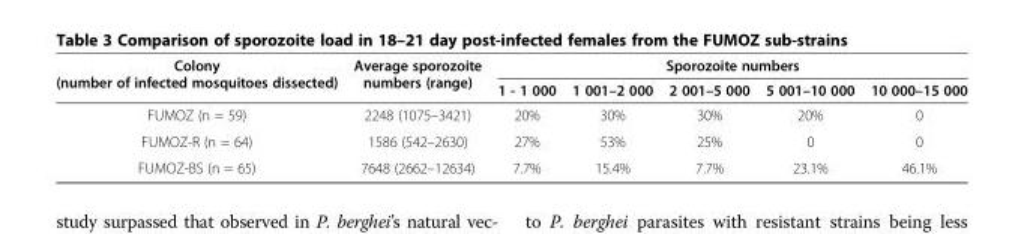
<table><thead><tr><td rowspan="2">Colony (number of infected mosquitoes dissected)</td><td rowspan="2">Average sporozoite numbers (range)</td><td colspan="5">Sporozoite numbers</td></tr><tr><td>1 - 1 000</td><td>1 001–2 000</td><td>2 001–5 000</td><td>5 001–10 000</td><td>10 000–15 000</td></tr></thead><tbody><tr><td>FUMOZ (n = 59)</td><td>2248 (1075–3421)</td><td>20%</td><td>30%</td><td>30%</td><td>20%</td><td>0</td></tr><tr><td>FUMOZ-R (n = 64)</td><td>1586 (542–2630)</td><td>27%</td><td>53%</td><td>25%</td><td>0</td><td>0</td></tr><tr><td>FUMOZ-BS (n = 65)</td><td>7648 (2662–12634)</td><td>7.7%</td><td>15.4%</td><td>7.7%</td><td>23.1%</td><td>46.1%</td></tr></tbody></table>